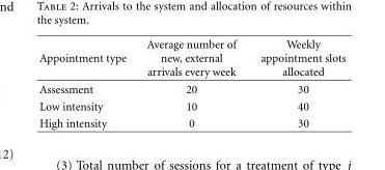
<table><thead><tr><td>Appointment type</td><td>Average number of new, external arrivals every week</td><td>Weekly appointment slots allocated</td></tr></thead><tbody><tr><td>Assessment</td><td>20</td><td>30</td></tr><tr><td>Low intensity</td><td>10</td><td>40</td></tr><tr><td>High intensity</td><td>0</td><td>30</td></tr></tbody></table>